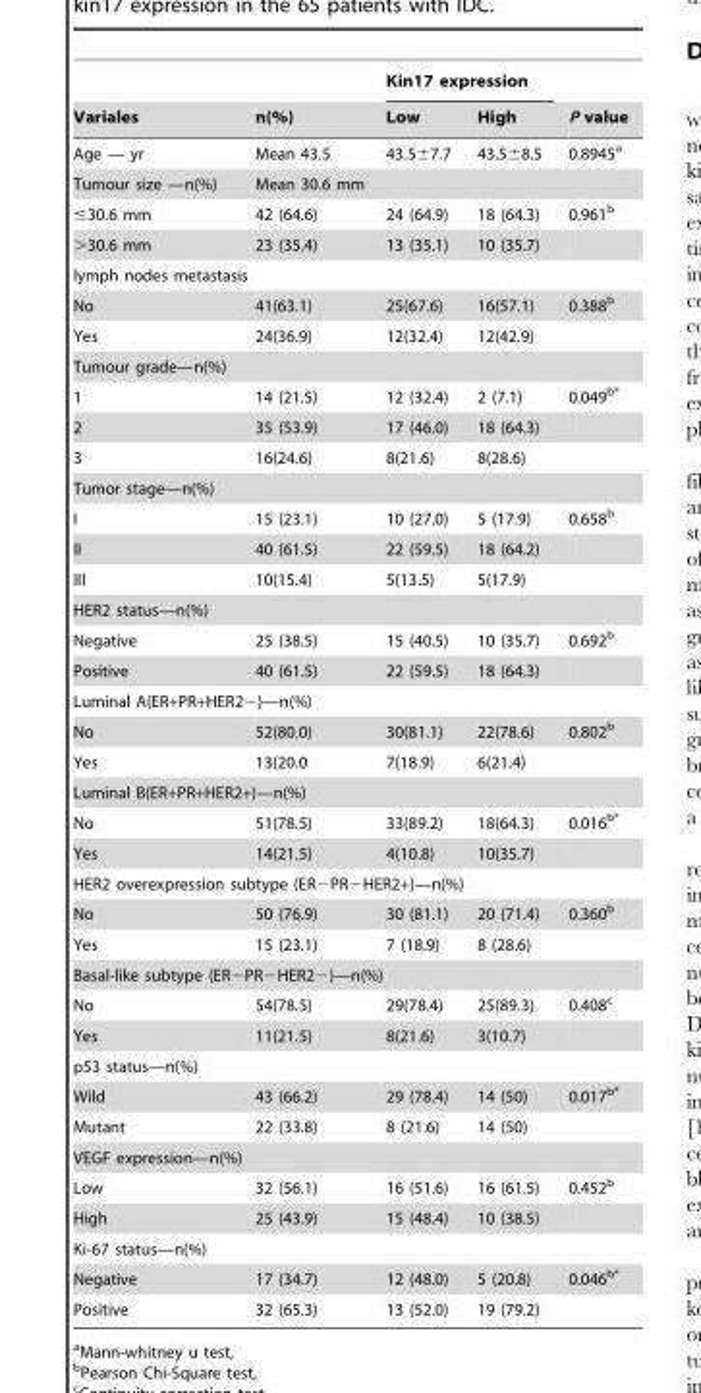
<table><thead><tr><td rowspan="2">Variales</td><td rowspan="2">n(%)</td><td colspan="2">Kin17 expression</td><td rowspan="2">P value</td></tr><tr><td>Low</td><td>High</td></tr></thead><tbody><tr><td>Age — yr</td><td>Mean 43.5</td><td>43.5±7.7</td><td>43.5±8.5</td><td>0.8945<sup>a</sup></td></tr><tr><td>Tumour size —n(%)</td><td colspan="4">Mean 30.6 mm</td></tr><tr><td>≤30.6 mm</td><td>42 (64.6)</td><td>24 (64.9)</td><td>18 (64.3)</td><td>0.961<sup>b</sup></td></tr><tr><td>&gt;30.6 mm</td><td>23 (35.4)</td><td>13 (35.1)</td><td>10 (35.7)</td><td></td></tr><tr><td colspan="5">lymph nodes metastasis</td></tr><tr><td>No</td><td>41(63.1)</td><td>25(67.6)</td><td>16(57.1)</td><td>0.388<sup>b</sup></td></tr><tr><td>Yes</td><td>24(36.9)</td><td>12(32.4)</td><td>12(42.9)</td><td></td></tr><tr><td colspan="5">Tumour grade—n(%)</td></tr><tr><td>1</td><td>14 (21.5)</td><td>12 (32.4)</td><td>2 (7.1)</td><td>0.049<sup>b</sup>*</td></tr><tr><td>2</td><td>35 (53.9)</td><td>17 (46.0)</td><td>18 (64.3)</td><td></td></tr><tr><td>3</td><td>16(24.6)</td><td>8(21.6)</td><td>8(28.6)</td><td></td></tr><tr><td colspan="5">Tumor stage—n(%)</td></tr><tr><td>I</td><td>15 (23.1)</td><td>10 (27.0)</td><td>5 (17.9)</td><td>0.658<sup>b</sup></td></tr><tr><td>II</td><td>40 (61.5)</td><td>22 (59.5)</td><td>18 (64.2)</td><td></td></tr><tr><td>III</td><td>10(15.4)</td><td>5(13.5)</td><td>5(17.9)</td><td></td></tr><tr><td colspan="5">HER2 status—n(%)</td></tr><tr><td>Negative</td><td>25 (38.5)</td><td>15 (40.5)</td><td>10 (35.7)</td><td>0.692<sup>b</sup></td></tr><tr><td>Positive</td><td>40 (61.5)</td><td>22 (59.5)</td><td>18 (64.3)</td><td></td></tr><tr><td colspan="5">Luminal A(ER+PR+HER2−)—n(%)</td></tr><tr><td>No</td><td>52(80.0)</td><td>30(81.1)</td><td>22(78.6)</td><td>0.802<sup>b</sup></td></tr><tr><td>Yes</td><td>13(20.0</td><td>7(18.9)</td><td>6(21.4)</td><td></td></tr><tr><td colspan="5">Luminal B(ER+PR+HER2+)—n(%)</td></tr><tr><td>No</td><td>51(78.5)</td><td>33(89.2)</td><td>18(64.3)</td><td>0.016<sup>b</sup>*</td></tr><tr><td>Yes</td><td>14(21.5)</td><td>4(10.8)</td><td>10(35.7)</td><td></td></tr><tr><td colspan="5">HER2 overexpression subtype (ER−PR−HER2+)—n(%)</td></tr><tr><td>No</td><td>50 (76.9)</td><td>30 (81.1)</td><td>20 (71.4)</td><td>0.360<sup>b</sup></td></tr><tr><td>Yes</td><td>15 (23.1)</td><td>7 (18.9)</td><td>8 (28.6)</td><td></td></tr><tr><td colspan="5">Basal-like subtype (ER−PR−HER2−)—n(%)</td></tr><tr><td>No</td><td>54(78.5)</td><td>29(78.4)</td><td>25(89.3)</td><td>0.408<sup>c</sup></td></tr><tr><td>Yes</td><td>11(21.5)</td><td>8(21.6)</td><td>3(10.7)</td><td></td></tr><tr><td colspan="5">p53 status—n(%)</td></tr><tr><td>Wild</td><td>43 (66.2)</td><td>29 (78.4)</td><td>14 (50)</td><td>0.017<sup>b</sup>*</td></tr><tr><td>Mutant</td><td>22 (33.8)</td><td>8 (21.6)</td><td>14 (50)</td><td></td></tr><tr><td colspan="5">VEGF expression—n(%)</td></tr><tr><td>Low</td><td>32 (56.1)</td><td>16 (51.6)</td><td>16 (61.5)</td><td>0.452<sup>b</sup></td></tr><tr><td>High</td><td>25 (43.9)</td><td>15 (48.4)</td><td>10 (38.5)</td><td></td></tr><tr><td colspan="5">Ki-67 status—n(%)</td></tr><tr><td>Negative</td><td>17 (34.7)</td><td>12 (48.0)</td><td>5 (20.8)</td><td>0.046<sup>b</sup>*</td></tr><tr><td>Positive</td><td>32 (65.3)</td><td>13 (52.0)</td><td>19 (79.2)</td><td></td></tr></tbody></table>